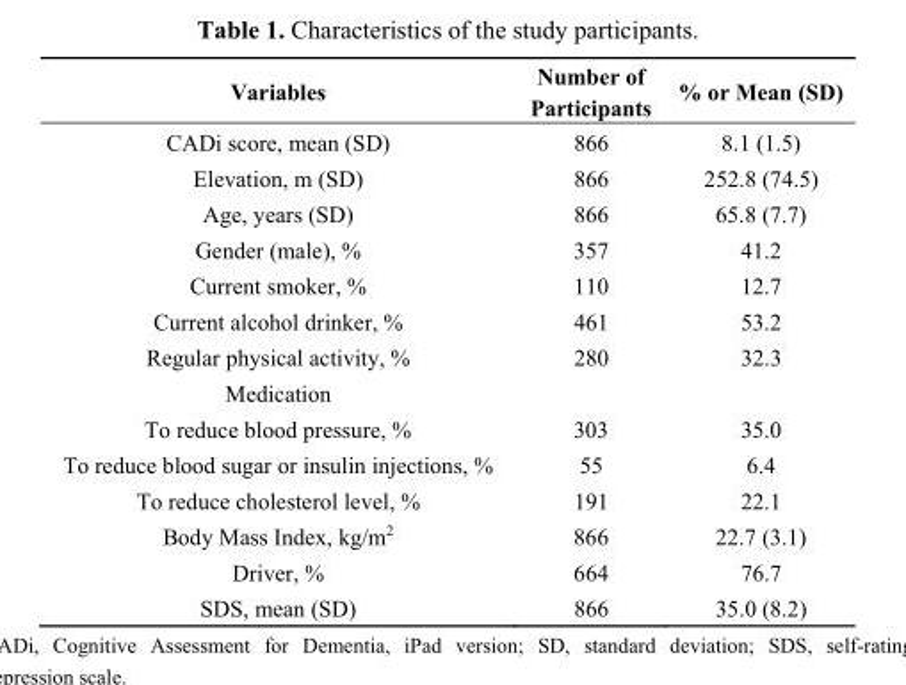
<table><thead><tr><td>Variables</td><td>Number of Participants</td><td>% or Mean (SD)</td></tr></thead><tbody><tr><td>CADi score, mean (SD)</td><td>866</td><td>8.1 (1.5)</td></tr><tr><td>Elevation, m (SD)</td><td>866</td><td>252.8 (74.5)</td></tr><tr><td>Age, years (SD)</td><td>866</td><td>65.8 (7.7)</td></tr><tr><td>Gender (male), %</td><td>357</td><td>41.2</td></tr><tr><td>Current smoker, %</td><td>110</td><td>12.7</td></tr><tr><td>Current alcohol drinker, %</td><td>461</td><td>53.2</td></tr><tr><td>Regular physical activity, %</td><td>280</td><td>32.3</td></tr><tr><td colspan="3">Medication</td></tr><tr><td>To reduce blood pressure, %</td><td>303</td><td>35.0</td></tr><tr><td>To reduce blood sugar or insulin injections, %</td><td>55</td><td>6.4</td></tr><tr><td>To reduce cholesterol level, %</td><td>191</td><td>22.1</td></tr><tr><td>Body Mass Index, kg/m<sup>2</sup></td><td>866</td><td>22.7 (3.1)</td></tr><tr><td>Driver, %</td><td>664</td><td>76.7</td></tr><tr><td>SDS, mean (SD)</td><td>866</td><td>35.0 (8.2)</td></tr></tbody></table>